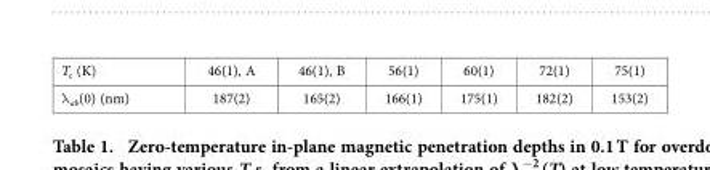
<table><tbody><tr><td>T<sub>c</sub> (K)</td><td>46(1), A</td><td>46(1), B</td><td>56(1)</td><td>60(1)</td><td>72(1)</td><td>75(1)</td></tr><tr><td>λ <sub>ab</sub>(0) (nm)</td><td>187(2)</td><td>165(2)</td><td>166(1)</td><td>175(1)</td><td>182(2)</td><td>153(2)</td></tr></tbody></table>